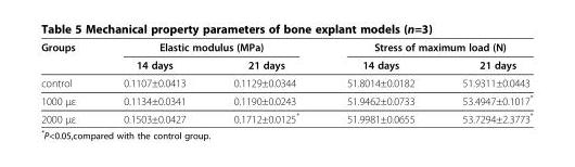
<table><thead><tr><td rowspan="2">Groups</td><td colspan="2">Elastic modulus (MPa)</td><td colspan="2">Stress of maximum load (N)</td></tr><tr><td>14 days</td><td>21 days</td><td>14 days</td><td>21 days</td></tr></thead><tbody><tr><td>control</td><td>0.1107±0.0413</td><td>0.1129±0.0344</td><td>51.8014±0.0182</td><td>51.9311±0.0443</td></tr><tr><td>1000 με</td><td>0.1134±0.0341</td><td>0.1190±0.0243</td><td>51.9462±0.0733</td><td>53.4947±0.1017*</td></tr><tr><td>2000 με</td><td>0.1503±0.0427</td><td>0.1712±0.0125*</td><td>51.9981±0.0655</td><td>53.7294±2.3773*</td></tr></tbody></table>